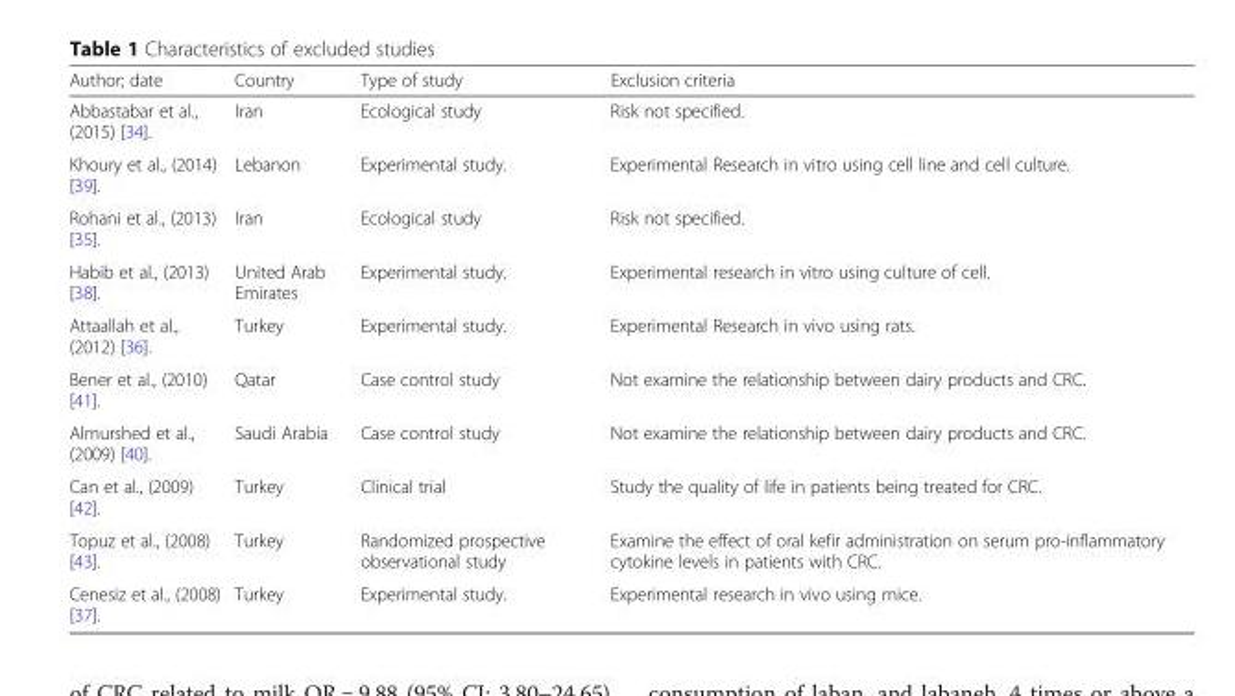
<table><thead><tr><td>Author; date</td><td>Country</td><td>Type of study</td><td>Exclusion criteria</td></tr></thead><tbody><tr><td>Abbastabar et al., (2015) [34].</td><td>Iran</td><td>Ecological study</td><td>Risk not specified.</td></tr><tr><td>Khoury et al., (2014) [39].</td><td>Lebanon</td><td>Experimental study.</td><td>Experimental Research in vitro using cell line and cell culture.</td></tr><tr><td>Rohani et al., (2013) [35].</td><td>Iran</td><td>Ecological study</td><td>Risk not specified.</td></tr><tr><td>Habib et al., (2013) [38].</td><td>United Arab Emirates</td><td>Experimental study.</td><td>Experimental research in vitro using culture of cell.</td></tr><tr><td>Attaallah et al., (2012) [36].</td><td>Turkey</td><td>Experimental study.</td><td>Experimental Research in vivo using rats.</td></tr><tr><td>Bener et al., (2010) [41].</td><td>Qatar</td><td>Case control study</td><td>Not examine the relationship between dairy products and CRC.</td></tr><tr><td>Almurshed et al., (2009) [40].</td><td>Saudi Arabia</td><td>Case control study</td><td>Not examine the relationship between dairy products and CRC.</td></tr><tr><td>Can et al., (2009) [42].</td><td>Turkey</td><td>Clinical trial</td><td>Study the quality of life in patients being treated for CRC.</td></tr><tr><td>Topuz et al., (2008) [43].</td><td>Turkey</td><td>Randomized prospective observational study</td><td>Examine the effect of oral kefir administration on serum pro-inflammatory cytokine levels in patients with CRC.</td></tr><tr><td>Cenesiz et al., (2008) [37].</td><td>Turkey</td><td>Experimental study.</td><td>Experimental research in vivo using mice.</td></tr></tbody></table>